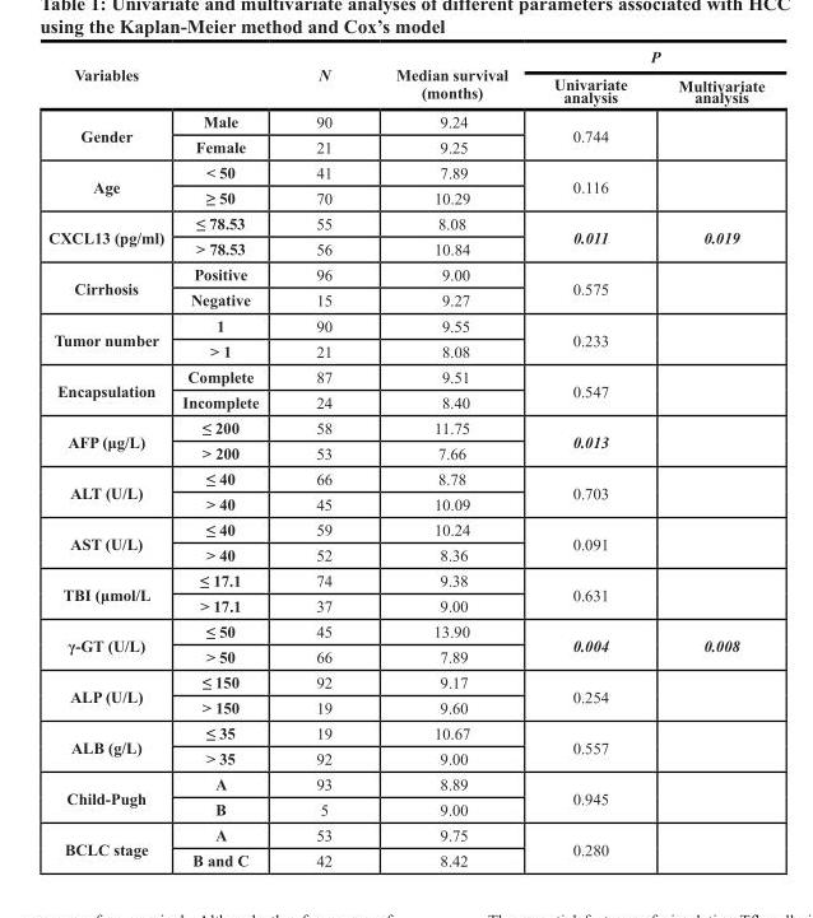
<table><thead><tr><td rowspan="2">Variables</td><td rowspan="2"></td><td rowspan="2">N</td><td rowspan="2">Median survival (months)</td><td colspan="2">P</td></tr><tr><td>Univariate analysis</td><td>Multivariate analysis</td></tr></thead><tbody><tr><td rowspan="2">Gender</td><td>Male</td><td>90</td><td>9.24</td><td rowspan="2">0.744</td><td rowspan="2"></td></tr><tr><td>Female</td><td>21</td><td>9.25</td></tr><tr><td rowspan="2">Age</td><td>&lt; 50</td><td>41</td><td>7.89</td><td rowspan="2">0.116</td><td rowspan="2"></td></tr><tr><td>≥ 50</td><td>70</td><td>10.29</td></tr><tr><td rowspan="2">CXCL13 (pg/ml)</td><td>≤ 78.53</td><td>55</td><td>8.08</td><td rowspan="2">0.011</td><td rowspan="2">0.019</td></tr><tr><td>&gt; 78.53</td><td>56</td><td>10.84</td></tr><tr><td rowspan="2">Cirrhosis</td><td>Positive</td><td>96</td><td>9.00</td><td rowspan="2">0.575</td><td rowspan="2"></td></tr><tr><td>Negative</td><td>15</td><td>9.27</td></tr><tr><td rowspan="2">Tumor number</td><td>1</td><td>90</td><td>9.55</td><td rowspan="2">0.233</td><td rowspan="2"></td></tr><tr><td>&gt; 1</td><td>21</td><td>8.08</td></tr><tr><td rowspan="2">Encapsulation</td><td>Complete</td><td>87</td><td>9.51</td><td rowspan="2">0.547</td><td rowspan="2"></td></tr><tr><td>Incomplete</td><td>24</td><td>8.40</td></tr><tr><td rowspan="2">AFP (μg/L)</td><td>≤ 200</td><td>58</td><td>11.75</td><td rowspan="2">0.013</td><td rowspan="2"></td></tr><tr><td>&gt; 200</td><td>53</td><td>7.66</td></tr><tr><td rowspan="2">ALT (U/L)</td><td>≤ 40</td><td>66</td><td>8.78</td><td rowspan="2">0.703</td><td rowspan="2"></td></tr><tr><td>&gt; 40</td><td>45</td><td>10.09</td></tr><tr><td rowspan="2">AST (U/L)</td><td>≤ 40</td><td>59</td><td>10.24</td><td rowspan="2">0.091</td><td rowspan="2"></td></tr><tr><td>&gt; 40</td><td>52</td><td>8.36</td></tr><tr><td rowspan="2">TBI (μmol/L</td><td>≤ 17.1</td><td>74</td><td>9.38</td><td rowspan="2">0.631</td><td rowspan="2"></td></tr><tr><td>&gt; 17.1</td><td>37</td><td>9.00</td></tr><tr><td rowspan="2">γ-GT (U/L)</td><td>≤ 50</td><td>45</td><td>13.90</td><td rowspan="2">0.004</td><td rowspan="2">0.008</td></tr><tr><td>&gt; 50</td><td>66</td><td>7.89</td></tr><tr><td rowspan="2">ALP (U/L)</td><td>≤ 150</td><td>92</td><td>9.17</td><td rowspan="2">0.254</td><td rowspan="2"></td></tr><tr><td>&gt; 150</td><td>19</td><td>9.60</td></tr><tr><td rowspan="2">ALB (g/L)</td><td>≤ 35</td><td>19</td><td>10.67</td><td rowspan="2">0.557</td><td rowspan="2"></td></tr><tr><td>&gt; 35</td><td>92</td><td>9.00</td></tr><tr><td rowspan="2">Child-Pugh</td><td>A</td><td>93</td><td>8.89</td><td rowspan="2">0.945</td><td rowspan="2"></td></tr><tr><td>B</td><td>5</td><td>9.00</td></tr><tr><td rowspan="2">BCLC stage</td><td>A</td><td>53</td><td>9.75</td><td rowspan="2">0.280</td><td rowspan="2"></td></tr><tr><td>B and C</td><td>42</td><td>8.42</td></tr></tbody></table>